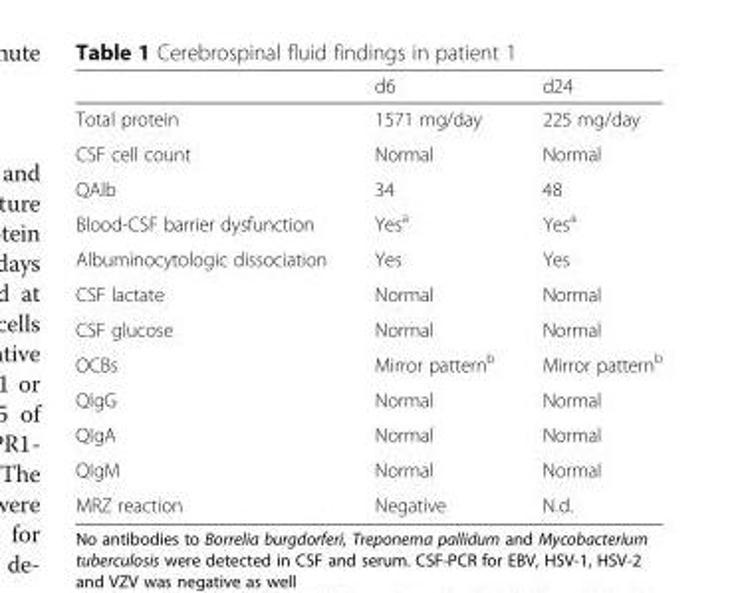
<table><thead><tr><td></td><td>d6</td><td>d24</td></tr></thead><tbody><tr><td>Total protein</td><td>1571 mg/day</td><td>225 mg/day</td></tr><tr><td>CSF cell count</td><td>Normal</td><td>Normal</td></tr><tr><td>QAlb</td><td>34</td><td>48</td></tr><tr><td>Blood-CSF barrier dysfunction</td><td>Yes<sup>a</sup></td><td>Yes<sup>a</sup></td></tr><tr><td>Albuminocytologic dissociation</td><td>Yes</td><td>Yes</td></tr><tr><td>CSF lactate</td><td>Normal</td><td>Normal</td></tr><tr><td>CSF glucose</td><td>Normal</td><td>Normal</td></tr><tr><td>OCBs</td><td>Mirror pattern<sup>b</sup></td><td>Mirror pattern<sup>b</sup></td></tr><tr><td>QIgG</td><td>Normal</td><td>Normal</td></tr><tr><td>QIgA</td><td>Normal</td><td>Normal</td></tr><tr><td>QIgM</td><td>Normal</td><td>Normal</td></tr><tr><td>MRZ reaction</td><td>Negative</td><td>N.d.</td></tr></tbody></table>